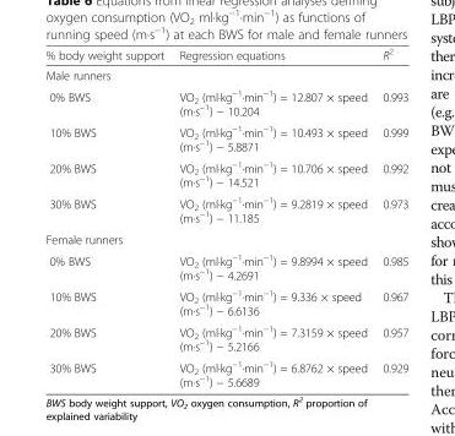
<table><thead><tr><td>% body weight support</td><td>Regression equations</td><td>R<sup>2</sup></td></tr></thead><tbody><tr><td colspan="3">Male runners</td></tr><tr><td>0% BWS</td><td>VO<sub>2</sub> (ml·kg<sup>−1</sup>·min<sup>−1</sup>) = 12.807 × speed (m·s<sup>−1</sup>) − 10.204</td><td>0.993</td></tr><tr><td>10% BWS</td><td>VO<sub>2</sub> (ml·kg<sup>−1</sup>·min<sup>−1</sup>) = 10.493 × speed (m·s<sup>−1</sup>) − 5.8871</td><td>0.999</td></tr><tr><td>20% BWS</td><td>VO<sub>2</sub> (ml·kg<sup>−1</sup>·min<sup>−1</sup>) = 10.706 × speed (m·s<sup>−1</sup>) − 14.521</td><td>0.992</td></tr><tr><td>30% BWS</td><td>VO<sub>2</sub> (ml·kg<sup>−1</sup>·min<sup>−1</sup>) = 9.2819 × speed (m·s<sup>−1</sup>) − 11.185</td><td>0.973</td></tr><tr><td colspan="3">Female runners</td></tr><tr><td>0% BWS</td><td>VO<sub>2</sub> (ml·kg<sup>−1</sup>·min<sup>−1</sup>) = 9.8994 × speed (m·s<sup>−1</sup>) − 4.2691</td><td>0.985</td></tr><tr><td>10% BWS</td><td>VO<sub>2</sub> (ml·kg<sup>−1</sup>·min<sup>−1</sup>) = 9.336 × speed (m·s<sup>−1</sup>) − 6.6136</td><td>0.967</td></tr><tr><td>20% BWS</td><td>VO<sub>2</sub> (ml·kg<sup>−1</sup>·min<sup>−1</sup>) = 7.3159 × speed (m·s<sup>−1</sup>) − 5.2166</td><td>0.957</td></tr><tr><td>30% BWS</td><td>VO<sub>2</sub> (ml·kg<sup>−1</sup>·min<sup>−1</sup>) = 6.8762 × speed (m·s<sup>−1</sup>) − 5.6689</td><td>0.929</td></tr></tbody></table>